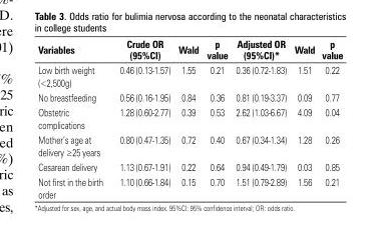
<table><thead><tr><td>Variables</td><td>Crude OR (95%CI)</td><td>Wald</td><td>p value</td><td>Adjusted OR (95%CI)*</td><td>Wald</td><td>p value</td></tr></thead><tbody><tr><td>Low birth weight (&lt;2,500g)</td><td>0.46 (0.13-1.57)</td><td>1.55</td><td>0.21</td><td>0.36 (0.72-1.83)</td><td>1.51</td><td>0.22</td></tr><tr><td>No breastfeeding</td><td>0.56 (0.16-1.95)</td><td>0.84</td><td>0.36</td><td>0.81 (0.19-3.37)</td><td>0.09</td><td>0.77</td></tr><tr><td>Obstetric complications</td><td>1.28 (0.60-2.77)</td><td>0.39</td><td>0.53</td><td>2.62 (1.03-6.67)</td><td>4.09</td><td>0.04</td></tr><tr><td>Mother’s age at delivery ≥25 years</td><td>0.80 (0.47-1.35)</td><td>0.72</td><td>0.40</td><td>0.67 (0.34-1.34)</td><td>1.28</td><td>0.26</td></tr><tr><td>Cesarean delivery</td><td>1.13 (0.67-1.91)</td><td>0.22</td><td>0.64</td><td>0.94 (0.49-1.79)</td><td>0.03</td><td>0.85</td></tr><tr><td>Not first in the birth order</td><td>1.10 (0.66-1.84)</td><td>0.15</td><td>0.70</td><td>1.51 (0.79-2.89)</td><td>1.56</td><td>0.21</td></tr></tbody></table>